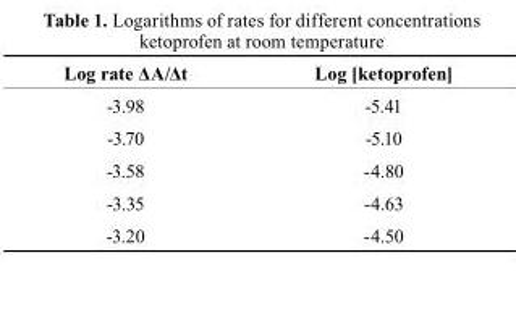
<table><thead><tr><td>Log rate ΔA/Δt</td><td>Log [ketoprofen]</td></tr></thead><tbody><tr><td>-3.98</td><td>-5.41</td></tr><tr><td>-3.70</td><td>-5.10</td></tr><tr><td>-3.58</td><td>-4.80</td></tr><tr><td>-3.35</td><td>-4.63</td></tr><tr><td>-3.20</td><td>-4.50</td></tr></tbody></table>